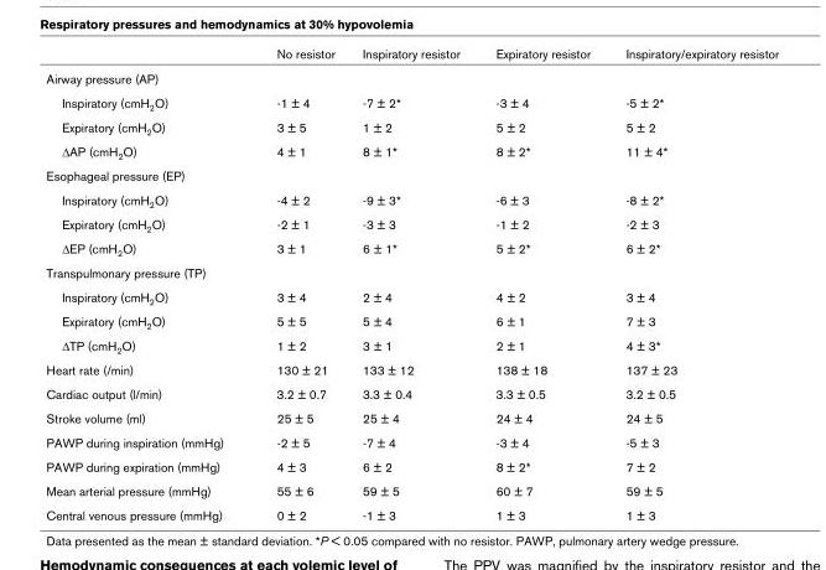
<table><thead><tr><td></td><td>No resistor</td><td>Inspiratory resistor</td><td>Expiratory resistor</td><td>Inspiratory/expiratory resistor</td></tr></thead><tbody><tr><td colspan="5">Airway pressure (AP)</td></tr><tr><td>Inspiratory (cmH<sub>2</sub>O)</td><td>-1 ± 4</td><td>-7 ± 2*</td><td>-3 ± 4</td><td>-5 ± 2*</td></tr><tr><td>Expiratory (cmH<sub>2</sub>O)</td><td>3 ± 5</td><td>1 ± 2</td><td>5 ± 2</td><td>5 ± 2</td></tr><tr><td>ΔAP (cmH<sub>2</sub>O)</td><td>4 ± 1</td><td>8 ± 1*</td><td>8 ± 2*</td><td>11 ± 4*</td></tr><tr><td colspan="5">Esophageal pressure (EP)</td></tr><tr><td>Inspiratory (cmH<sub>2</sub>O)</td><td>-4 ± 2</td><td>-9 ± 3*</td><td>-6 ± 3</td><td>-8 ± 2*</td></tr><tr><td>Expiratory (cmH<sub>2</sub>O)</td><td>-2 ± 1</td><td>-3 ± 3</td><td>-1 ± 2</td><td>-2 ± 3</td></tr><tr><td>ΔEP (cmH<sub>2</sub>O)</td><td>3 ± 1</td><td>6 ± 1*</td><td>5 ± 2*</td><td>6 ± 2*</td></tr><tr><td colspan="5">Transpulmonary pressure (TP)</td></tr><tr><td>Inspiratory (cmH<sub>2</sub>O)</td><td>3 ± 4</td><td>2 ± 4</td><td>4 ± 2</td><td>3 ± 4</td></tr><tr><td>Expiratory (cmH<sub>2</sub>O)</td><td>5 ± 5</td><td>5 ± 4</td><td>6 ± 1</td><td>7 ± 3</td></tr><tr><td>ΔTP (cmH<sub>2</sub>O)</td><td>1 ± 2</td><td>3 ± 1</td><td>2 ± 1</td><td>4 ± 3*</td></tr><tr><td>Heart rate (/min)</td><td>130 ± 21</td><td>133 ± 12</td><td>138 ± 18</td><td>137 ± 23</td></tr><tr><td>Cardiac output (l/min)</td><td>3.2 ± 0.7</td><td>3.3 ± 0.4</td><td>3.3 ± 0.5</td><td>3.2 ± 0.5</td></tr><tr><td>Stroke volume (ml)</td><td>25 ± 5</td><td>25 ± 4</td><td>24 ± 4</td><td>24 ± 5</td></tr><tr><td>PAWP during inspiration (mmHg)</td><td>-2 ± 5</td><td>-7 ± 4</td><td>-3 ± 4</td><td>-5 ± 3</td></tr><tr><td>PAWP during expiration (mmHg)</td><td>4 ± 3</td><td>6 ± 2</td><td>8 ± 2*</td><td>7 ± 2</td></tr><tr><td>Mean arterial pressure (mmHg)</td><td>55 ± 6</td><td>59 ± 5</td><td>60 ± 7</td><td>59 ± 5</td></tr><tr><td>Central venous pressure (mmHg)</td><td>0 ± 2</td><td>-1 ± 3</td><td>1 ± 3</td><td>1 ± 3</td></tr></tbody></table>